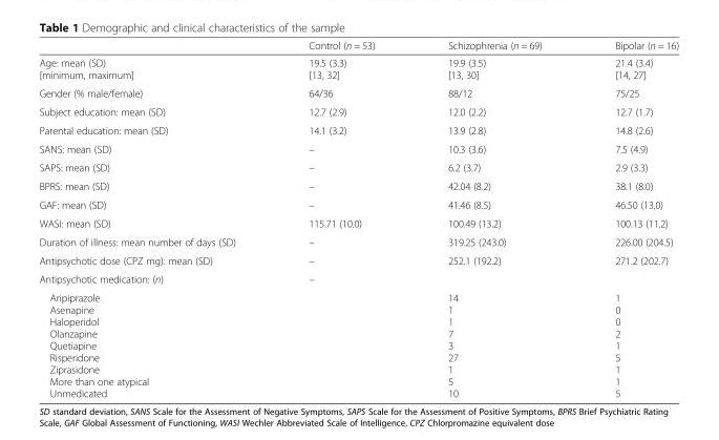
<table><thead><tr><td></td><td>Control (n = 53)</td><td>Schizophrenia (n = 69)</td><td>Bipolar (n = 16)</td></tr></thead><tbody><tr><td>Age: mean (SD) [minimum, maximum]</td><td>19.5 (3.3) [13, 32]</td><td>19.9 (3.5) [13, 30]</td><td>21.4 (3.4) [14, 27]</td></tr><tr><td>Gender (% male/female)</td><td>64/36</td><td>88/12</td><td>75/25</td></tr><tr><td>Subject education: mean (SD)</td><td>12.7 (2.9)</td><td>12.0 (2.2)</td><td>12.7 (1.7)</td></tr><tr><td>Parental education: mean (SD)</td><td>14.1 (3.2)</td><td>13.9 (2.8)</td><td>14.8 (2.6)</td></tr><tr><td>SANS: mean (SD)</td><td>–</td><td>10.3 (3.6)</td><td>7.5 (4.9)</td></tr><tr><td>SAPS: mean (SD)</td><td>–</td><td>6.2 (3.7)</td><td>2.9 (3.3)</td></tr><tr><td>BPRS: mean (SD)</td><td>–</td><td>42.04 (8.2)</td><td>38.1 (8.0)</td></tr><tr><td>GAF: mean (SD)</td><td>–</td><td>41.46 (8.5)</td><td>46.50 (13.0)</td></tr><tr><td>WASI: mean (SD)</td><td>115.71 (10.0)</td><td>100.49 (13.2)</td><td>100.13 (11.2)</td></tr><tr><td>Duration of illness: mean number of days (SD)</td><td>–</td><td>319.25 (243.0)</td><td>226.00 (204.5)</td></tr><tr><td>Antipsychotic dose (CPZ mg): mean (SD)</td><td>–</td><td>252.1 (192.2)</td><td>271.2 (202.7)</td></tr><tr><td>Antipsychotic medication: (n)</td><td>–</td><td></td><td></td></tr><tr><td>Aripiprazole Asenapine Haloperidol Olanzapine Quetiapine Risperidone Ziprasidone More than one atypical Unmedicated</td><td></td><td>14 1 1 7 3 27 1 5 10</td><td>1 0 0 2 1 5 1 1 5</td></tr></tbody></table>